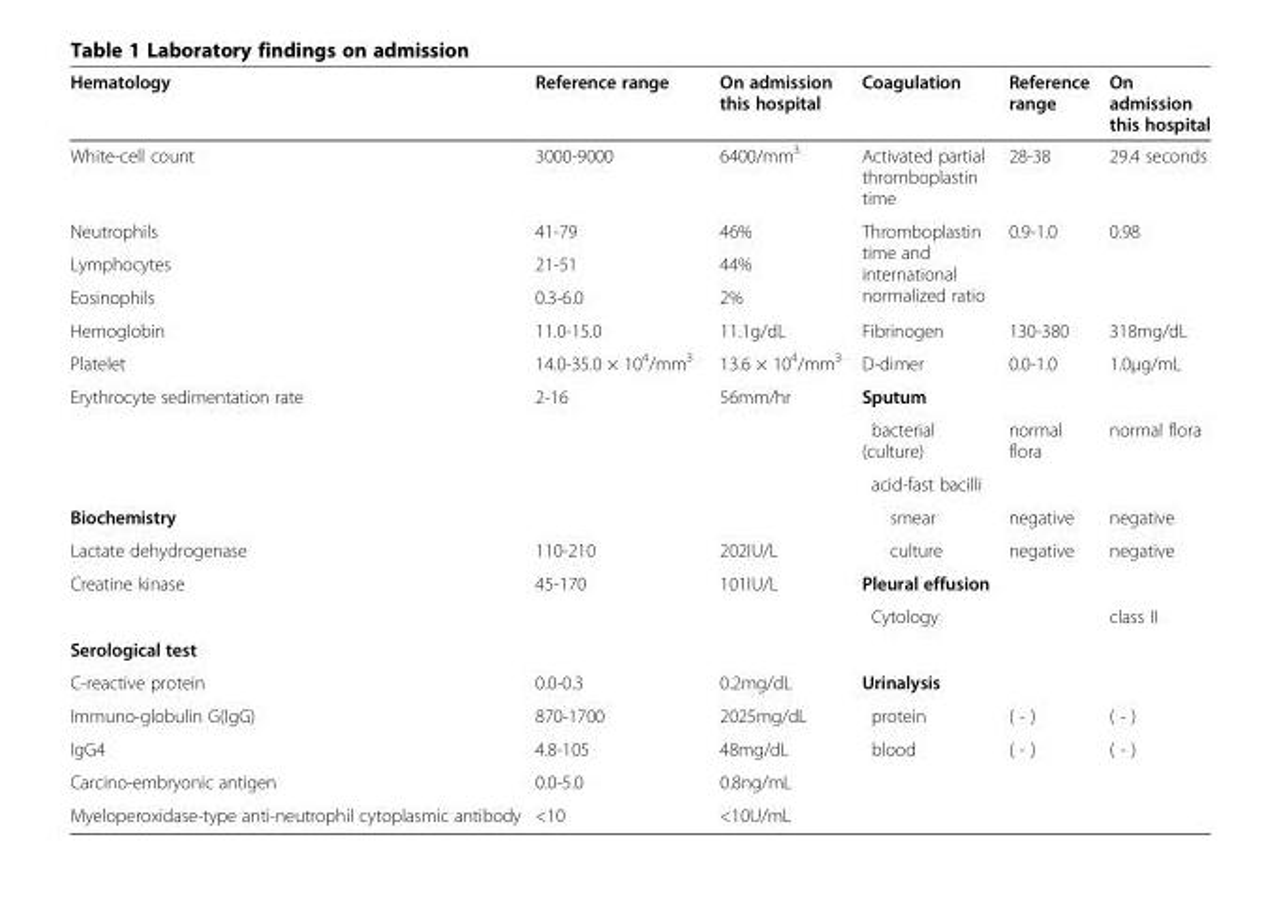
<table><thead><tr><td>Hematology</td><td>Reference range</td><td>On admission this hospital</td><td>Coagulation</td><td>Reference range</td><td>On admission this hospital</td></tr></thead><tbody><tr><td>White-cell count</td><td>3000-9000</td><td>6400/mm<sup>3</sup></td><td>Activated partial thromboplastin time</td><td>28-38</td><td>29.4 seconds</td></tr><tr><td>Neutrophils</td><td>41-79</td><td>46%</td><td rowspan="3">Thromboplastin time and international normalized ratio</td><td rowspan="3">0.9-1.0</td><td rowspan="3">0.98</td></tr><tr><td>Lymphocytes</td><td>21-51</td><td>44%</td></tr><tr><td>Eosinophils</td><td>0.3-6.0</td><td>2%</td></tr><tr><td>Hemoglobin</td><td>11.0-15.0</td><td>11.1g/dL</td><td>Fibrinogen</td><td>130-380</td><td>318mg/dL</td></tr><tr><td>Platelet</td><td>14.0-35.0 × 10<sup>4</sup>/mm<sup>3</sup></td><td>13.6 × 10<sup>4</sup>/mm<sup>3</sup></td><td>D-dimer</td><td>0.0-1.0</td><td>1.0μg/mL</td></tr><tr><td rowspan="3">Erythrocyte sedimentation rate</td><td rowspan="3">2-16</td><td rowspan="3">56mm/hr</td><td>Sputum</td><td></td><td></td></tr><tr><td>bacterial (culture)</td><td>normal flora</td><td>normal flora</td></tr><tr><td colspan="3">acid-fast bacilli</td></tr><tr><td>Biochemistry</td><td></td><td></td><td>smear</td><td>negative</td><td>negative</td></tr><tr><td>Lactate dehydrogenase</td><td>110-210</td><td>202IU/L</td><td>culture</td><td>negative</td><td>negative</td></tr><tr><td rowspan="2">Creatine kinase</td><td rowspan="2">45-170</td><td rowspan="2">101IU/L</td><td>Pleural effusion</td><td></td><td></td></tr><tr><td>Cytology</td><td></td><td>class II</td></tr><tr><td colspan="6">Serological test</td></tr><tr><td>C-reactive protein</td><td>0.0-0.3</td><td>0.2mg/dL</td><td>Urinalysis</td><td></td><td></td></tr><tr><td>Immuno-globulin G(IgG)</td><td>870-1700</td><td>2025mg/dL</td><td>protein</td><td>( - )</td><td>( - )</td></tr><tr><td>IgG4</td><td>4.8-105</td><td>48mg/dL</td><td>blood</td><td>( - )</td><td>( - )</td></tr><tr><td>Carcino-embryonic antigen</td><td>0.0-5.0</td><td>0.8ng/mL</td><td></td><td></td><td></td></tr><tr><td>Myeloperoxidase-type anti-neutrophil cytoplasmic antibody</td><td>&lt;10</td><td>&lt;10U/mL</td><td></td><td></td><td></td></tr></tbody></table>